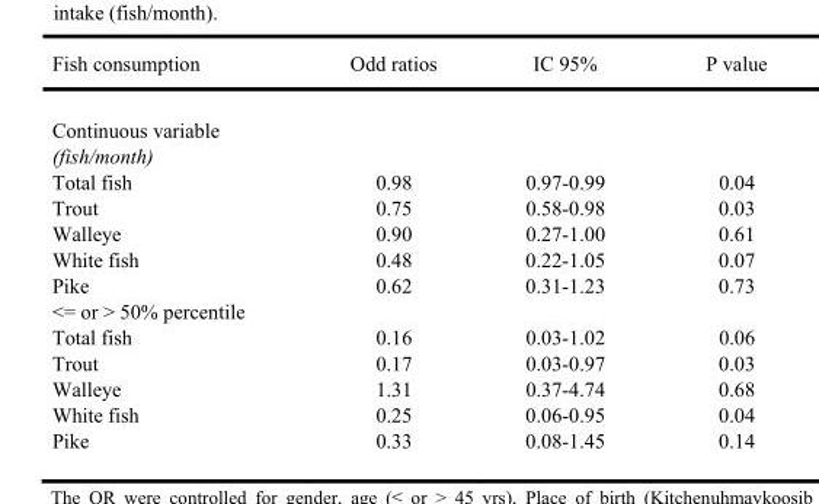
<table><thead><tr><td>Fish consumption</td><td>Odd ratios</td><td>IC 95%</td><td>P value</td></tr></thead><tbody><tr><td colspan="4">Continuous variable (fish/month)</td></tr><tr><td>Total fish</td><td>0.98</td><td>0.97-0.99</td><td>0.04</td></tr><tr><td>Trout</td><td>0.75</td><td>0.58-0.98</td><td>0.03</td></tr><tr><td>Walleye</td><td>0.90</td><td>0.27-1.00</td><td>0.61</td></tr><tr><td>White fish</td><td>0.48</td><td>0.22-1.05</td><td>0.07</td></tr><tr><td>Pike</td><td>0.62</td><td>0.31-1.23</td><td>0.73</td></tr><tr><td colspan="4">&lt;= or &gt; 50% percentile</td></tr><tr><td>Total fish</td><td>0.16</td><td>0.03-1.02</td><td>0.06</td></tr><tr><td>Trout</td><td>0.17</td><td>0.03-0.97</td><td>0.03</td></tr><tr><td>Walleye</td><td>1.31</td><td>0.37-4.74</td><td>0.68</td></tr><tr><td>White fish</td><td>0.25</td><td>0.06-0.95</td><td>0.04</td></tr><tr><td>Pike</td><td>0.33</td><td>0.08-1.45</td><td>0.14</td></tr></tbody></table>